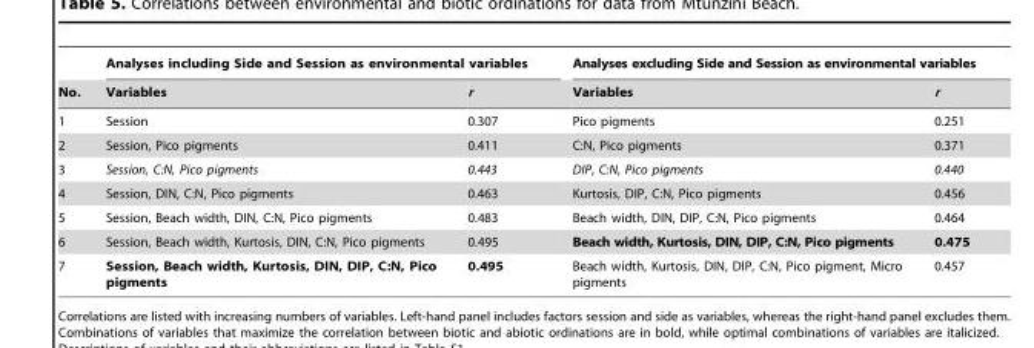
<table><thead><tr><td rowspan="2">No.</td><td colspan="2">Analyses including Side and Session as environmental variables</td><td colspan="2">Analyses excluding Side and Session as environmental variables</td></tr><tr><td>Variables</td><td>r</td><td>Variables</td><td>r</td></tr></thead><tbody><tr><td>1</td><td>Session</td><td>0.307</td><td>Pico pigments</td><td>0.251</td></tr><tr><td>2</td><td>Session, Pico pigments</td><td>0.411</td><td>C:N, Pico pigments</td><td>0.371</td></tr><tr><td>3</td><td>Session, C:N, Pico pigments</td><td>0.443</td><td>DIP, C:N, Pico pigments</td><td>0.440</td></tr><tr><td>4</td><td>Session, DIN, C:N, Pico pigments</td><td>0.463</td><td>Kurtosis, DIP, C:N, Pico pigments</td><td>0.456</td></tr><tr><td>5</td><td>Session, Beach width, DIN, C:N, Pico pigments</td><td>0.483</td><td>Beach width, DIN, DIP, C:N, Pico pigments</td><td>0.464</td></tr><tr><td>6</td><td>Session, Beach width, Kurtosis, DIN, C:N, Pico pigments</td><td>0.495</td><td>Beach width, Kurtosis, DIN, DIP, C:N, Pico pigments</td><td>0.475</td></tr><tr><td>7</td><td>Session, Beach width, Kurtosis, DIN, DIP, C:N, Pico pigments</td><td>0.495</td><td>Beach width, Kurtosis, DIN, DIP, C:N, Pico pigment, Micro pigments</td><td>0.457</td></tr></tbody></table>